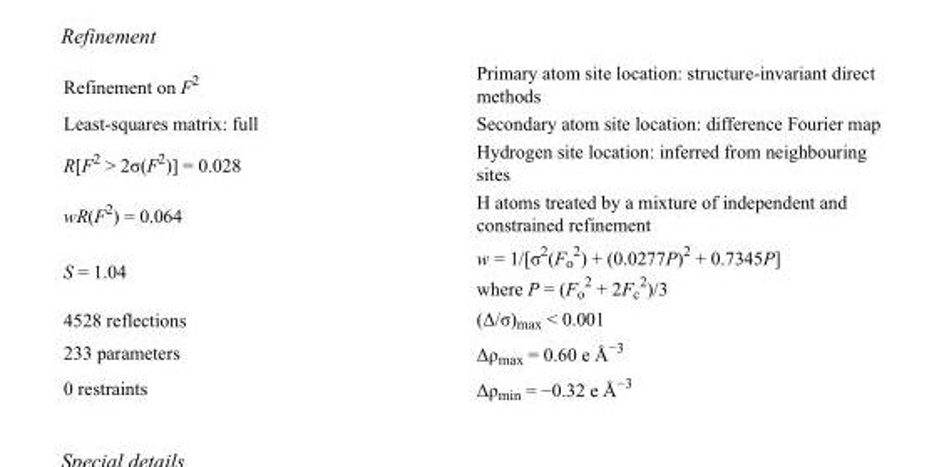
<table><tbody><tr><td>Refinement on F<sup>2</sup></td><td>Primary atom site location: structure-invariant direct methods</td></tr><tr><td>Least-squares matrix: full</td><td>Secondary atom site location: difference Fourier map</td></tr><tr><td>R[F<sup>2</sup> &gt; 2σ(F<sup>2</sup>)] = 0.028</td><td>Hydrogen site location: inferred from neighbouring sites</td></tr><tr><td>wR(F<sup>2</sup>) = 0.064</td><td>H atoms treated by a mixture of independent and constrained refinement</td></tr><tr><td>S = 1.04</td><td>w = 1/[σ<sup>2</sup>(F<sub>o</sub> <sup>2</sup>) + (0.0277P)<sup>2</sup> + 0.7345P] where P = (F<sub>o</sub> <sup>2</sup> + 2F<sub>c</sub> <sup>2</sup>)/3</td></tr><tr><td>4528 reflections</td><td>(Δ/σ)<sub>max</sub> &lt; 0.001</td></tr><tr><td>233 parameters</td><td>Δρ<sub>max</sub> = 0.60 e Å<sup>−3</sup></td></tr><tr><td>0 restraints</td><td>Δρ<sub>min</sub> = −0.32 e Å<sup>−3</sup></td></tr></tbody></table>